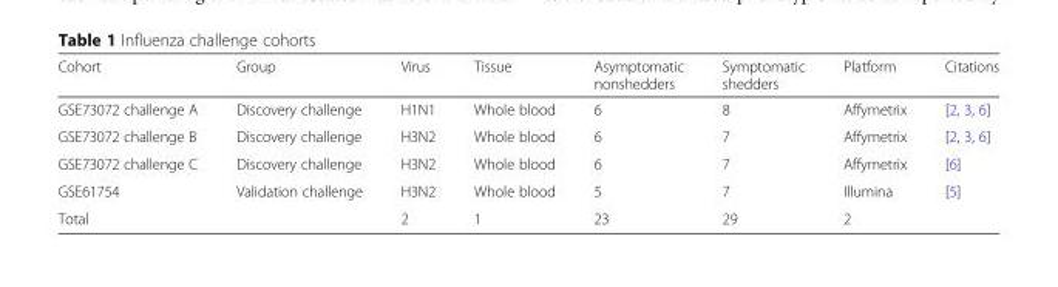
<table><thead><tr><td>Cohort</td><td>Group</td><td>Virus</td><td>Tissue</td><td>Asymptomatic nonshedders</td><td>Symptomatic shedders</td><td>Platform</td><td>Citations</td></tr></thead><tbody><tr><td>GSE73072 challenge A</td><td>Discovery challenge</td><td>H1N1</td><td>Whole blood</td><td>6</td><td>8</td><td>Affymetrix</td><td>[2, 3, 6]</td></tr><tr><td>GSE73072 challenge B</td><td>Discovery challenge</td><td>H3N2</td><td>Whole blood</td><td>6</td><td>7</td><td>Affymetrix</td><td>[2, 3, 6]</td></tr><tr><td>GSE73072 challenge C</td><td>Discovery challenge</td><td>H3N2</td><td>Whole blood</td><td>6</td><td>7</td><td>Affymetrix</td><td>[6]</td></tr><tr><td>GSE61754</td><td>Validation challenge</td><td>H3N2</td><td>Whole blood</td><td>5</td><td>7</td><td>Illumina</td><td>[5]</td></tr><tr><td>Total</td><td></td><td>2</td><td>1</td><td>23</td><td>29</td><td>2</td><td></td></tr></tbody></table>